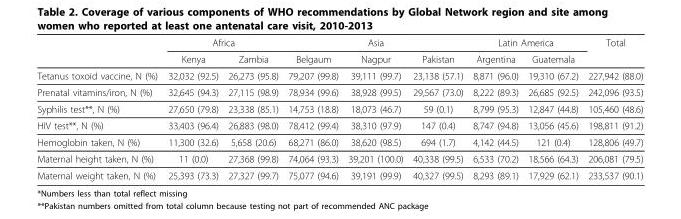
<table><thead><tr><td rowspan="2"></td><td colspan="2">Africa</td><td colspan="3">Asia</td><td colspan="2">Latin America</td><td rowspan="2">Total</td></tr><tr><td>Kenya</td><td>Zambia</td><td>Belgaum</td><td>Nagpur</td><td>Pakistan</td><td>Argentina</td><td>Guatemala</td></tr></thead><tbody><tr><td>Tetanus toxoid vaccine, N (%)</td><td>32,032 (92.5)</td><td>26,273 (95.8)</td><td>79,207 (99.8)</td><td>39,111 (99.7)</td><td>23,138 (57.1)</td><td>8,871 (96.0)</td><td>19,310 (67.2)</td><td>227,942 (88.0)</td></tr><tr><td>Prenatal vitamins/iron, N (%)</td><td>32,645 (94.3)</td><td>27,115 (98.9)</td><td>78,934 (99.6)</td><td>38,928 (99.5)</td><td>29,567 (73.0)</td><td>8,222 (89.3)</td><td>26,685 (92.5)</td><td>242,096 (93.5)</td></tr><tr><td>Syphilis test**, N (%)</td><td>27,650 (79.8)</td><td>23,338 (85.1)</td><td>14,753 (18.8)</td><td>18,073 (46.7)</td><td>59 (0.1)</td><td>8,799 (95.3)</td><td>12,847 (44.8)</td><td>105,460 (48.6)</td></tr><tr><td>HIV test**, N (%)</td><td>33,403 (96.4)</td><td>26,883 (98.0)</td><td>78,412 (99.4)</td><td>38,310 (97.9)</td><td>147 (0.4)</td><td>8,747 (94.8)</td><td>13,056 (45.6)</td><td>198,811 (91.2)</td></tr><tr><td>Hemoglobin taken, N (%)</td><td>11,300 (32.6)</td><td>5,658 (20.6)</td><td>68,271 (86.0)</td><td>38,620 (98.5)</td><td>694 (1.7)</td><td>4,142 (44.5)</td><td>121 (0.4)</td><td>128,806 (49.7)</td></tr><tr><td>Maternal height taken, N (%)</td><td>11 (0.0)</td><td>27,368 (99.8)</td><td>74,064 (93.3)</td><td>39,201 (100.0)</td><td>40,338 (99.5)</td><td>6,533 (70.2)</td><td>18,566 (64.3)</td><td>206,081 (79.5)</td></tr><tr><td>Maternal weight taken, N (%)</td><td>25,393 (73.3)</td><td>27,327 (99.7)</td><td>75,077 (94.6)</td><td>39,191 (99.9)</td><td>40,327 (99.5)</td><td>8,293 (89.1)</td><td>17,929 (62.1)</td><td>233,537 (90.1)</td></tr></tbody></table>